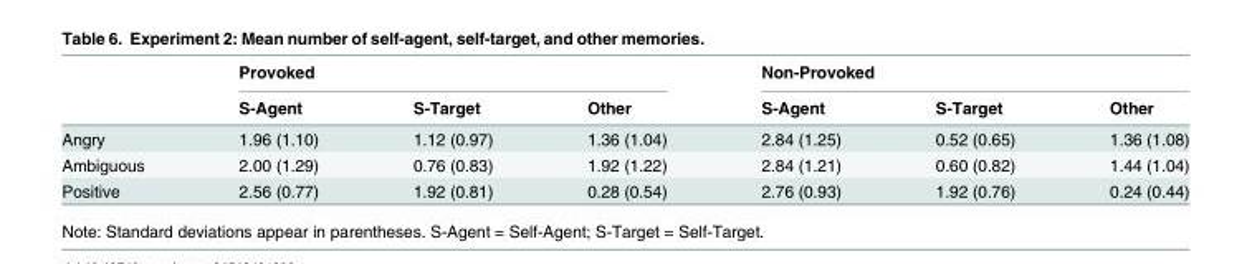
<table><thead><tr><td rowspan="2"></td><td colspan="3">Provoked</td><td colspan="3">Non-Provoked</td></tr><tr><td>S-Agent</td><td>S-Target</td><td>Other</td><td>S-Agent</td><td>S-Target</td><td>Other</td></tr></thead><tbody><tr><td>Angry</td><td>1.96 (1.10)</td><td>1.12 (0.97)</td><td>1.36 (1.04)</td><td>2.84 (1.25)</td><td>0.52 (0.65)</td><td>1.36 (1.08)</td></tr><tr><td>Ambiguous</td><td>2.00 (1.29)</td><td>0.76 (0.83)</td><td>1.92 (1.22)</td><td>2.84 (1.21)</td><td>0.60 (0.82)</td><td>1.44 (1.04)</td></tr><tr><td>Positive</td><td>2.56 (0.77)</td><td>1.92 (0.81)</td><td>0.28 (0.54)</td><td>2.76 (0.93)</td><td>1.92 (0.76)</td><td>0.24 (0.44)</td></tr></tbody></table>